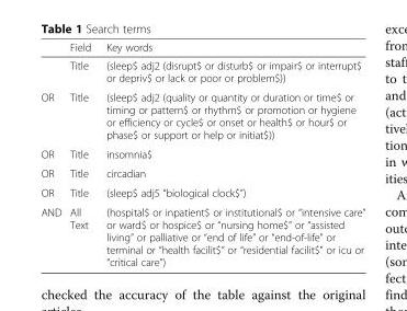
<table><thead><tr><td></td><td>Field</td><td>Key words</td></tr></thead><tbody><tr><td></td><td>Title</td><td>(sleep$ adj2 (disrupt$ or disturb$ or impair$ or interrupt$ or depriv$ or lack or poor or problem$))</td></tr><tr><td>OR</td><td>Title</td><td>(sleep$ adj2 (quality or quantity or duration or time$ or timing or pattern$ or rhythm$ or promotion or hygiene or efficiency or cycle$ or onset or health$ or hour$ or phase$ or support or help or initiat$))</td></tr><tr><td>OR</td><td>Title</td><td>insomnia$</td></tr><tr><td>OR</td><td>Title</td><td>circadian</td></tr><tr><td>OR</td><td>Title</td><td>(sleep$ adj5 “biological clock$”)</td></tr><tr><td>AND</td><td>All Text</td><td>(hospital$ or inpatient$ or institutional$ or “intensive care” or ward$ or hospice$ or “nursing home$” or “assisted living” or palliative or “end of life” or “end-of-life” or terminal or “health facilit$” or “residential facilit$” or icu or “critical care”)</td></tr></tbody></table>